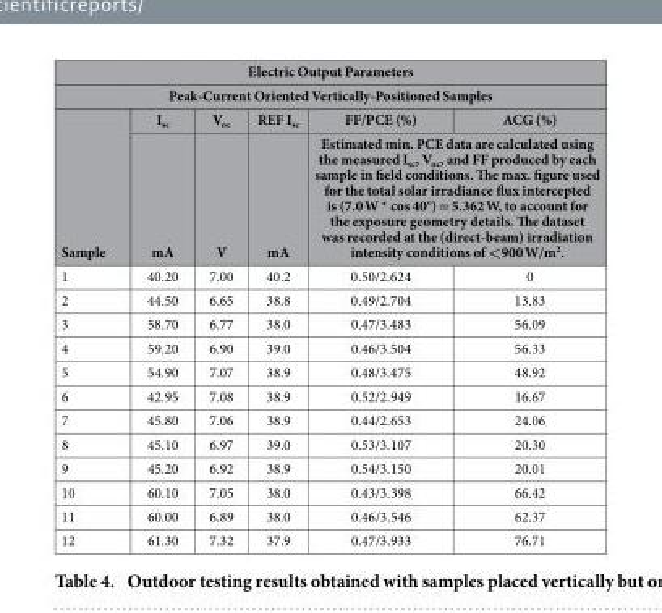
<table><thead><tr><td rowspan="2" colspan="6">Electric Output Parameters Peak-Current Oriented Vertically-Positioned Samples</td></tr><tr></tr><tr><td rowspan="2">Sample</td><td rowspan="2">I<sub>sc</sub> mA</td><td rowspan="2">V<sub>oc</sub> V</td><td rowspan="2">REF I<sub>sc</sub> mA</td><td>FF/PCE (%)</td><td>ACG (%)</td></tr><tr><td colspan="2">Estimated min. PCE data are calculated using the measured I<sub>sc</sub>, V<sub>oc</sub>, and FF produced by each sample in field conditions. The max. figure used for the total solar irradiance flux intercepted is (7.0 W * cos 40°) = 5.362 W, to account for the exposure geometry details. The dataset was recorded at the (direct-beam) irradiation intensity conditions of &lt;900 W/m<sup>2</sup>.</td></tr></thead><tbody><tr><td>1</td><td>40.20</td><td>7.00</td><td>40.2</td><td>0.50/2.624</td><td>0</td></tr><tr><td>2</td><td>44.50</td><td>6.65</td><td>38.8</td><td>0.49/2.704</td><td>13.83</td></tr><tr><td>3</td><td>58.70</td><td>6.77</td><td>38.0</td><td>0.47/3.483</td><td>56.09</td></tr><tr><td>4</td><td>59.20</td><td>6.90</td><td>39.0</td><td>0.46/3.504</td><td>56.33</td></tr><tr><td>5</td><td>54.90</td><td>7.07</td><td>38.9</td><td>0.48/3.475</td><td>48.92</td></tr><tr><td>6</td><td>42.95</td><td>7.08</td><td>38.9</td><td>0.52/2.949</td><td>16.67</td></tr><tr><td>7</td><td>45.80</td><td>7.06</td><td>38.9</td><td>0.44/2.653</td><td>24.06</td></tr><tr><td>8</td><td>45.10</td><td>6.97</td><td>39.0</td><td>0.53/3.107</td><td>20.30</td></tr><tr><td>9</td><td>45.20</td><td>6.92</td><td>38.9</td><td>0.54/3.150</td><td>20.01</td></tr><tr><td>10</td><td>60.10</td><td>7.05</td><td>38.0</td><td>0.43/3.398</td><td>66.42</td></tr><tr><td>11</td><td>60.00</td><td>6.89</td><td>38.0</td><td>0.46/3.546</td><td>62.37</td></tr><tr><td>12</td><td>61.30</td><td>7.32</td><td>37.9</td><td>0.47/3.933</td><td>76.71</td></tr></tbody></table>